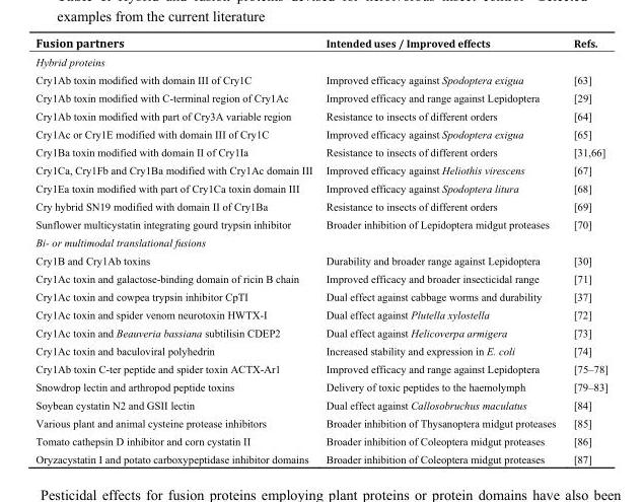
<table><thead><tr><td>Fusion partners</td><td>Intended uses / Improved effects</td><td>Refs.</td></tr></thead><tbody><tr><td colspan="3">Hybrid proteins</td></tr><tr><td>Cry1Ab toxin modified with domain III of Cry1C</td><td>Improved efficacy against Spodoptera exigua</td><td>[63]</td></tr><tr><td>Cry1Ab toxin modified with C-terminal region of Cry1Ac</td><td>Improved efficacy and range against Lepidoptera</td><td>[29]</td></tr><tr><td>Cry1Ab toxin modified with part of Cry3A variable region</td><td>Resistance to insects of different orders</td><td>[64]</td></tr><tr><td>Cry1Ac or Cry1E modified with domain III of Cry1C</td><td>Improved efficacy against Spodoptera exigua</td><td>[65]</td></tr><tr><td>Cry1Ba toxin modified with domain II of Cry1Ia</td><td>Resistance to insects of different orders</td><td>[31,66]</td></tr><tr><td>Cry1Ca, Cry1Fb and Cry1Ba modified with Cry1Ac domain III</td><td>Improved efficacy against Heliothis virescens</td><td>[67]</td></tr><tr><td>Cry1Ea toxin modified with part of Cry1Ca toxin domain III</td><td>Improved efficacy against Spodoptera litura</td><td>[68]</td></tr><tr><td>Cry hybrid SN19 modified with domain II of Cry1Ba</td><td>Resistance to insects of different orders</td><td>[69]</td></tr><tr><td>Sunflower multicystatin integrating gourd trypsin inhibitor</td><td>Broader inhibition of Lepidoptera midgut proteases</td><td>[70]</td></tr><tr><td colspan="3">Bi- or multimodal translational fusions</td></tr><tr><td>Cry1B and Cry1Ab toxins</td><td>Durability and broader range against Lepidoptera</td><td>[30]</td></tr><tr><td>Cry1Ac toxin and galactose-binding domain of ricin B chain</td><td>Improved efficacy and broader insecticidal range</td><td>[71]</td></tr><tr><td>Cry1Ac toxin and cowpea trypsin inhibitor CpTI</td><td>Dual effect against cabbage worms and durability</td><td>[37]</td></tr><tr><td>Cry1Ac toxin and spider venom neurotoxin HWTX-I</td><td>Dual effect against Plutella xylostella</td><td>[72]</td></tr><tr><td>Cry1Ac toxin and Beauveria bassiana subtilisin CDEP2</td><td>Dual effect against Helicoverpa armigera</td><td>[73]</td></tr><tr><td>Cry1Ac toxin and baculoviral polyhedrin</td><td>Increased stability and expression in E. coli</td><td>[74]</td></tr><tr><td>Cry1Ab toxin C-ter peptide and spider toxin ACTX-Ar1</td><td>Improved efficacy and range against Lepidoptera</td><td>[75–78]</td></tr><tr><td>Snowdrop lectin and arthropod peptide toxins</td><td>Delivery of toxic peptides to the haemolymph</td><td>[79–83]</td></tr><tr><td>Soybean cystatin N2 and GSII lectin</td><td>Dual effect against Callosobruchus maculatus</td><td>[84]</td></tr><tr><td>Various plant and animal cysteine protease inhibitors</td><td>Broader inhibition of Thysanoptera midgut proteases</td><td>[85]</td></tr><tr><td>Tomato cathepsin D inhibitor and corn cystatin II</td><td>Broader inhibition of Coleoptera midgut proteases</td><td>[86]</td></tr><tr><td>Oryzacystatin I and potato carboxypeptidase inhibitor domains</td><td>Broader inhibition of Coleoptera midgut proteases</td><td>[87]</td></tr></tbody></table>